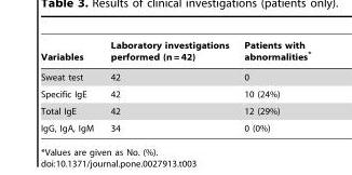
<table><thead><tr><td>Variables</td><td>Laboratory investigations performed (n = 42)</td><td>Patients with abnormalities*</td></tr></thead><tbody><tr><td>Sweat test</td><td>42</td><td>0</td></tr><tr><td>Specific IgE</td><td>42</td><td>10 (24%)</td></tr><tr><td>Total IgE</td><td>42</td><td>12 (29%)</td></tr><tr><td>IgG, IgA, IgM</td><td>34</td><td>0 (0%)</td></tr></tbody></table>